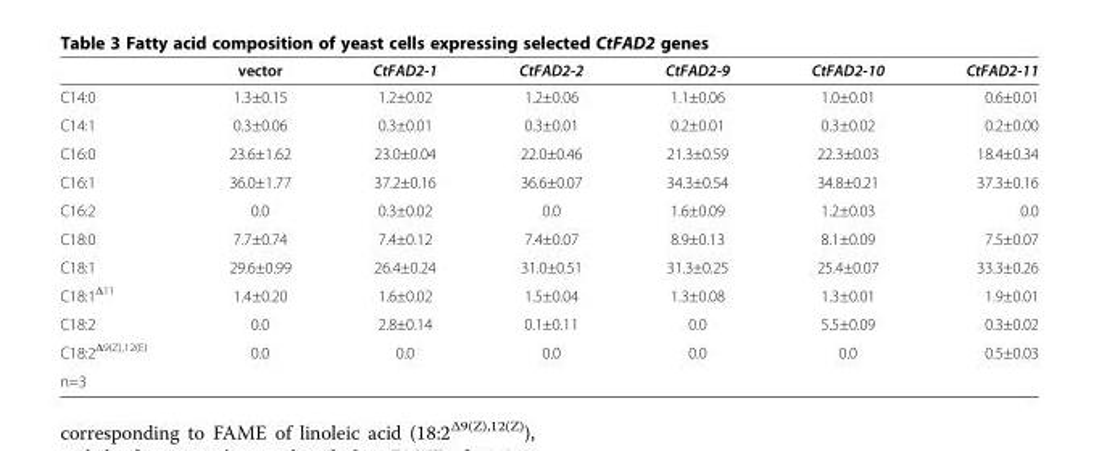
<table><thead><tr><td></td><td>vector</td><td>CtFAD2-1</td><td>CtFAD2-2</td><td>CtFAD2-9</td><td>CtFAD2-10</td><td>CtFAD2-11</td></tr></thead><tbody><tr><td>C14:0</td><td>1.3±0.15</td><td>1.2±0.02</td><td>1.2±0.06</td><td>1.1±0.06</td><td>1.0±0.01</td><td>0.6±0.01</td></tr><tr><td>C14:1</td><td>0.3±0.06</td><td>0.3±0.01</td><td>0.3±0.01</td><td>0.2±0.01</td><td>0.3±0.02</td><td>0.2±0.00</td></tr><tr><td>C16:0</td><td>23.6±1.62</td><td>23.0±0.04</td><td>22.0±0.46</td><td>21.3±0.59</td><td>22.3±0.03</td><td>18.4±0.34</td></tr><tr><td>C16:1</td><td>36.0±1.77</td><td>37.2±0.16</td><td>36.6±0.07</td><td>34.3±0.54</td><td>34.8±0.21</td><td>37.3±0.16</td></tr><tr><td>C16:2</td><td>0.0</td><td>0.3±0.02</td><td>0.0</td><td>1.6±0.09</td><td>1.2±0.03</td><td>0.0</td></tr><tr><td>C18:0</td><td>7.7±0.74</td><td>7.4±0.12</td><td>7.4±0.07</td><td>8.9±0.13</td><td>8.1±0.09</td><td>7.5±0.07</td></tr><tr><td>C18:1</td><td>29.6±0.99</td><td>26.4±0.24</td><td>31.0±0.51</td><td>31.3±0.25</td><td>25.4±0.07</td><td>33.3±0.26</td></tr><tr><td>C18:1<sup>Δ11</sup></td><td>1.4±0.20</td><td>1.6±0.02</td><td>1.5±0.04</td><td>1.3±0.08</td><td>1.3±0.01</td><td>1.9±0.01</td></tr><tr><td>C18:2</td><td>0.0</td><td>2.8±0.14</td><td>0.1±0.11</td><td>0.0</td><td>5.5±0.09</td><td>0.3±0.02</td></tr><tr><td>C18:2<sup>Δ9(Z),12(E)</sup></td><td>0.0</td><td>0.0</td><td>0.0</td><td>0.0</td><td>0.0</td><td>0.5±0.03</td></tr><tr><td>n=3</td><td></td><td></td><td></td><td></td><td></td><td></td></tr></tbody></table>